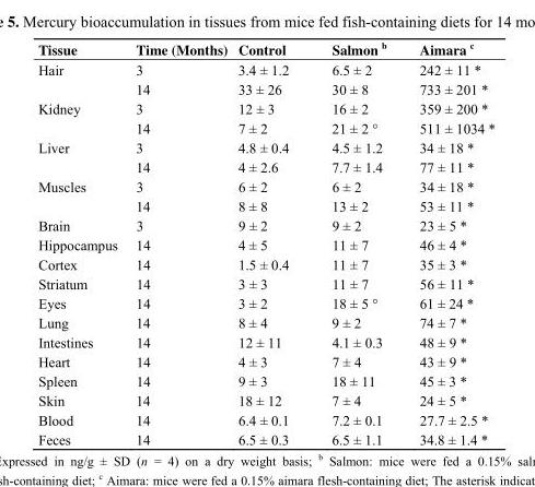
<table><thead><tr><td>Tissue</td><td>Time (Months)</td><td>Control</td><td>Salmon b</td><td>Aimara c</td></tr></thead><tbody><tr><td rowspan="2">Hair</td><td>3</td><td>3.4 ± 1.2</td><td>6.5 ± 2</td><td>242 ± 11 *</td></tr><tr><td>14</td><td>33 ± 26</td><td>30 ± 8</td><td>733 ± 201 *</td></tr><tr><td rowspan="2">Kidney</td><td>3</td><td>12 ± 3</td><td>16 ± 2</td><td>359 ± 200 *</td></tr><tr><td>14</td><td>7 ± 2</td><td>21 ± 2 °</td><td>511 ± 1034 *</td></tr><tr><td rowspan="2">Liver</td><td>3</td><td>4.8 ± 0.4</td><td>4.5 ± 1.2</td><td>34 ± 18 *</td></tr><tr><td>14</td><td>4 ± 2.6</td><td>7.7 ± 1.4</td><td>77 ± 11 *</td></tr><tr><td rowspan="2">Muscles</td><td>3</td><td>6 ± 2</td><td>6 ± 2</td><td>34 ± 18 *</td></tr><tr><td>14</td><td>8 ± 8</td><td>13 ± 2</td><td>53 ± 11 *</td></tr><tr><td>Brain</td><td>3</td><td>9 ± 2</td><td>9 ± 2</td><td>23 ± 5 *</td></tr><tr><td>Hippocampus</td><td>14</td><td>4 ± 5</td><td>11 ± 7</td><td>46 ± 4 *</td></tr><tr><td>Cortex</td><td>14</td><td>1.5 ± 0.4</td><td>11 ± 7</td><td>35 ± 3 *</td></tr><tr><td>Striatum</td><td>14</td><td>3 ± 3</td><td>11 ± 7</td><td>56 ± 11 *</td></tr><tr><td>Eyes</td><td>14</td><td>3 ± 2</td><td>18 ± 5 °</td><td>61 ± 24 *</td></tr><tr><td>Lung</td><td>14</td><td>8 ± 4</td><td>9 ± 2</td><td>74 ± 7 *</td></tr><tr><td>Intestines</td><td>14</td><td>12 ± 11</td><td>4.1 ± 0.3</td><td>48 ± 9 *</td></tr><tr><td>Heart</td><td>14</td><td>4 ± 3</td><td>7 ± 4</td><td>43 ± 9 *</td></tr><tr><td>Spleen</td><td>14</td><td>9 ± 3</td><td>18 ± 11</td><td>45 ± 3 *</td></tr><tr><td>Skin</td><td>14</td><td>18 ± 12</td><td>7 ± 4</td><td>24 ± 5 *</td></tr><tr><td>Blood</td><td>14</td><td>6.4 ± 0.1</td><td>7.2 ± 0.1</td><td>27.7 ± 2.5 *</td></tr><tr><td>Feces</td><td>14</td><td>6.5 ± 0.3</td><td>6.5 ± 1.1</td><td>34.8 ± 1.4 *</td></tr></tbody></table>